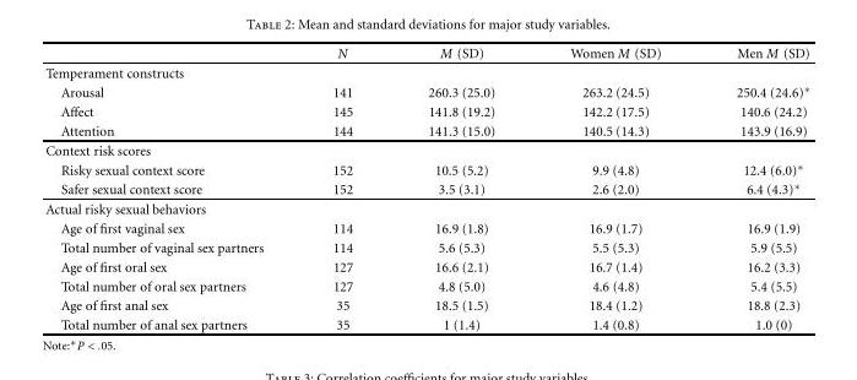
<table><thead><tr><td></td><td>N</td><td>M (SD)</td><td>Women M (SD)</td><td>Men M (SD)</td></tr></thead><tbody><tr><td colspan="5">Temperament constructs</td></tr><tr><td>Arousal</td><td>141</td><td>260.3 (25.0)</td><td>263.2 (24.5)</td><td>250.4 (24.6)∗</td></tr><tr><td>Affect</td><td>145</td><td>141.8 (19.2)</td><td>142.2 (17.5)</td><td>140.6 (24.2)</td></tr><tr><td>Attention</td><td>144</td><td>141.3 (15.0)</td><td>140.5 (14.3)</td><td>143.9 (16.9)</td></tr><tr><td colspan="5">Context risk scores</td></tr><tr><td>Risky sexual context score</td><td>152</td><td>10.5 (5.2)</td><td>9.9 (4.8)</td><td>12.4 (6.0)∗</td></tr><tr><td>Safer sexual context score</td><td>152</td><td>3.5 (3.1)</td><td>2.6 (2.0)</td><td>6.4 (4.3)∗</td></tr><tr><td colspan="5">Actual risky sexual behaviors</td></tr><tr><td>Age of first vaginal sex</td><td>114</td><td>16.9 (1.8)</td><td>16.9 (1.7)</td><td>16.9 (1.9)</td></tr><tr><td>Total number of vaginal sex partners</td><td>114</td><td>5.6 (5.3)</td><td>5.5 (5.3)</td><td>5.9 (5.5)</td></tr><tr><td>Age of first oral sex</td><td>127</td><td>16.6 (2.1)</td><td>16.7 (1.4)</td><td>16.2 (3.3)</td></tr><tr><td>Total number of oral sex partners</td><td>127</td><td>4.8 (5.0)</td><td>4.6 (4.8)</td><td>5.4 (5.5)</td></tr><tr><td>Age of first anal sex</td><td>35</td><td>18.5 (1.5)</td><td>18.4 (1.2)</td><td>18.8 (2.3)</td></tr><tr><td>Total number of anal sex partners</td><td>35</td><td>1 (1.4)</td><td>1.4 (0.8)</td><td>1.0 (0)</td></tr></tbody></table>